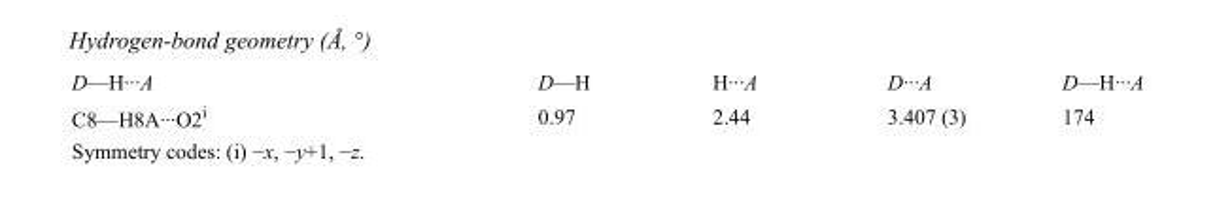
<table><tbody><tr><td>D—H···A</td><td>D—H</td><td>H···A</td><td>D···A</td><td>D—H···A</td></tr><tr><td>C8—H8A···O2<sup>i</sup></td><td>0.97</td><td>2.44</td><td>3.407 (3)</td><td>174</td></tr></tbody></table>